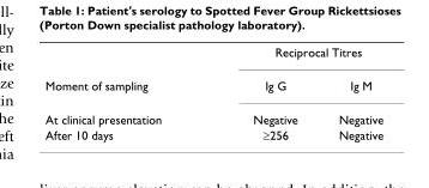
<table><thead><tr><td rowspan="2">Moment of sampling</td><td colspan="2">Reciprocal Titres</td></tr><tr><td>Ig G</td><td>Ig M</td></tr></thead><tbody><tr><td>At clinical presentation</td><td>Negative</td><td>Negative</td></tr><tr><td>After 10 days</td><td>≥256</td><td>Negative</td></tr></tbody></table>